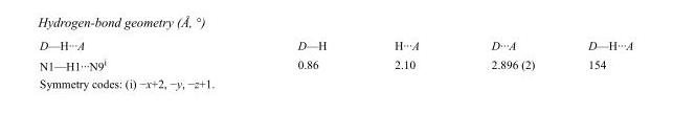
<table><tbody><tr><td>D—H···A</td><td>D—H</td><td>H···A</td><td>D···A</td><td>D—H···A</td></tr><tr><td>N1—H1···N9<sup>i</sup></td><td>0.86</td><td>2.10</td><td>2.896 (2)</td><td>154</td></tr></tbody></table>